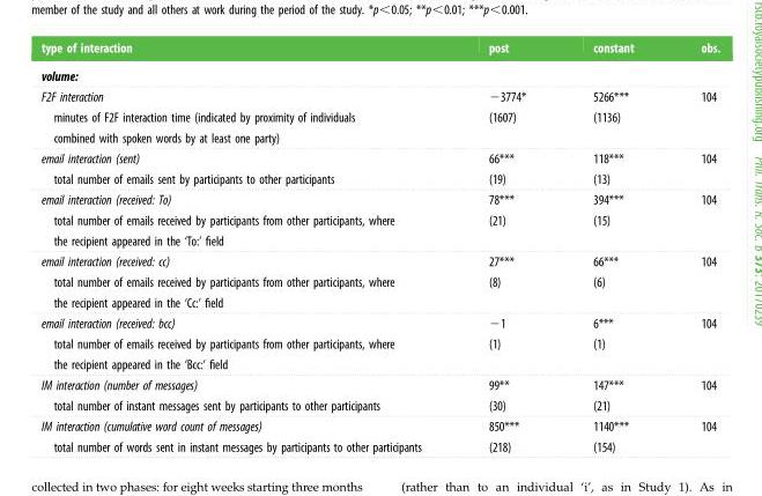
<table><thead><tr><td>type of interaction</td><td>post</td><td>constant</td><td>obs.</td></tr></thead><tbody><tr><td colspan="4">volume:</td></tr><tr><td>F2F interaction minutes of F2F interaction time (indicated by proximity of individuals combined with spoken words by at least one party)</td><td>−3774* (1607)</td><td>5266*** (1136)</td><td>104</td></tr><tr><td>email interaction (sent) total number of emails sent by participants to other participants</td><td>66*** (19)</td><td>118*** (13)</td><td>104</td></tr><tr><td>email interaction (received: To) total number of emails received by participants from other participants, where the recipient appeared in the ‘To:’ field</td><td>78*** (21)</td><td>394*** (15)</td><td>104</td></tr><tr><td>email interaction (received: cc) total number of emails received by participants from other participants, where the recipient appeared in the ‘Cc:’ field</td><td>27*** (8)</td><td>66*** (6)</td><td>104</td></tr><tr><td>email interaction (received: bcc) total number of emails received by participants from other participants, where the recipient appeared in the ‘Bcc:’ field</td><td>−1 (1)</td><td>6*** (1)</td><td>104</td></tr><tr><td>IM interaction (number of messages) total number of instant messages sent by participants to other participants</td><td>99** (30)</td><td>147*** (21)</td><td>104</td></tr><tr><td>IM interaction (cumulative word count of messages) total number of words sent in instant messages by participants to other participants</td><td>850*** (218)</td><td>1140*** (154)</td><td>104</td></tr></tbody></table>